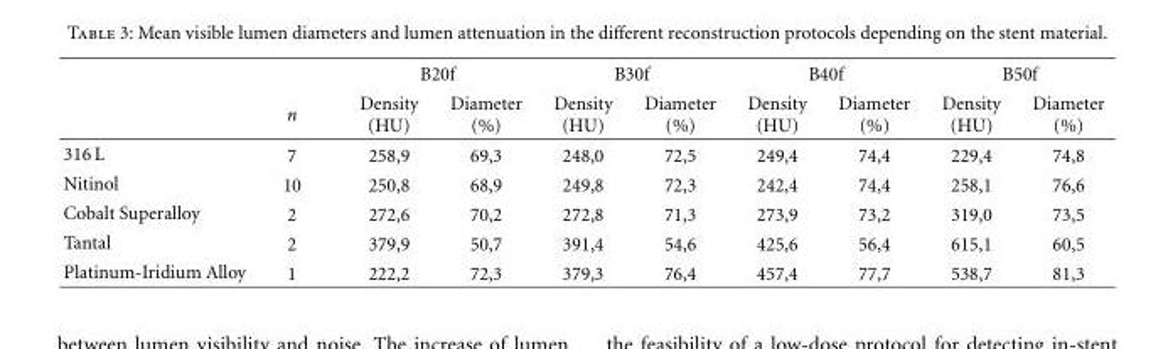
<table><thead><tr><td rowspan="2"></td><td rowspan="2">n</td><td colspan="2">B20f</td><td colspan="2">B30f</td><td colspan="2">B40f</td><td colspan="2">B50f</td></tr><tr><td>Density (HU)</td><td>Diameter (%)</td><td>Density (HU)</td><td>Diameter (%)</td><td>Density (HU)</td><td>Diameter (%)</td><td>Density (HU)</td><td>Diameter (%)</td></tr></thead><tbody><tr><td>316 L</td><td>7</td><td>258,9</td><td>69,3</td><td>248,0</td><td>72,5</td><td>249,4</td><td>74,4</td><td>229,4</td><td>74,8</td></tr><tr><td>Nitinol</td><td>10</td><td>250,8</td><td>68,9</td><td>249,8</td><td>72,3</td><td>242,4</td><td>74,4</td><td>258,1</td><td>76,6</td></tr><tr><td>Cobalt Superalloy</td><td>2</td><td>272,6</td><td>70,2</td><td>272,8</td><td>71,3</td><td>273,9</td><td>73,2</td><td>319,0</td><td>73,5</td></tr><tr><td>Tantal</td><td>2</td><td>379,9</td><td>50,7</td><td>391,4</td><td>54,6</td><td>425,6</td><td>56,4</td><td>615,1</td><td>60,5</td></tr><tr><td>Platinum-Iridium Alloy</td><td>1</td><td>222,2</td><td>72,3</td><td>379,3</td><td>76,4</td><td>457,4</td><td>77,7</td><td>538,7</td><td>81,3</td></tr></tbody></table>